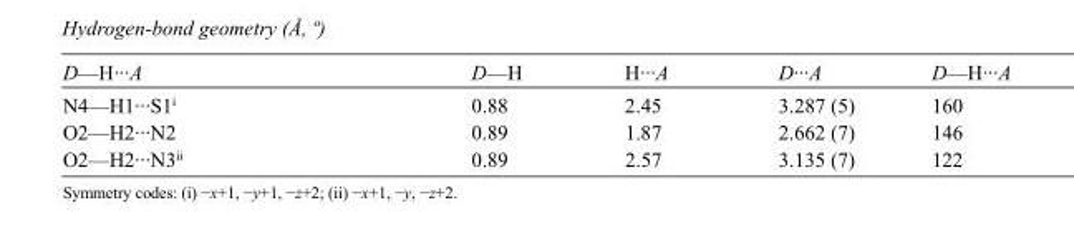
<table><tbody><tr><td>D—H···A</td><td>D—H</td><td>H···A</td><td>D···A</td><td>D—H···A</td></tr><tr><td>N4—H1···S1<sup>i</sup></td><td>0.88</td><td>2.45</td><td>3.287 (5)</td><td>160</td></tr><tr><td>O2—H2···N2</td><td>0.89</td><td>1.87</td><td>2.662 (7)</td><td>146</td></tr><tr><td>O2—H2···N3<sup>ii</sup></td><td>0.89</td><td>2.57</td><td>3.135 (7)</td><td>122</td></tr></tbody></table>